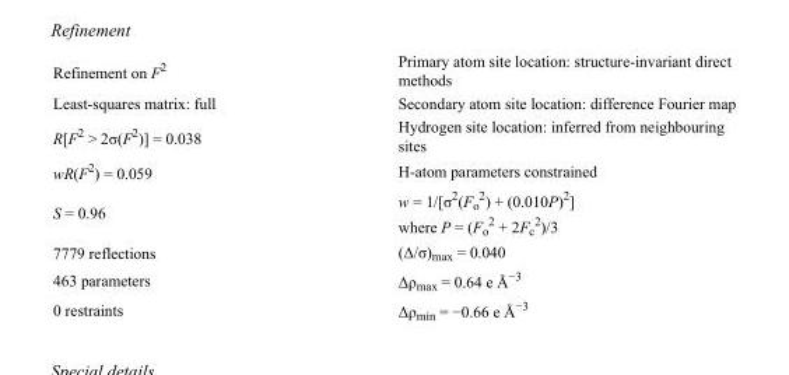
<table><tbody><tr><td>Refinement on F<sup>2</sup></td><td>Primary atom site location: structure-invariant direct methods</td></tr><tr><td>Least-squares matrix: full</td><td>Secondary atom site location: difference Fourier map</td></tr><tr><td>R[F<sup>2</sup> &gt; 2σ(F<sup>2</sup>)] = 0.038</td><td>Hydrogen site location: inferred from neighbouring sites</td></tr><tr><td>wR(F<sup>2</sup>) = 0.059</td><td>H-atom parameters constrained</td></tr><tr><td>S = 0.96</td><td>w = 1/[σ<sup>2</sup>(F<sub>o</sub> <sup>2</sup>) + (0.010P)<sup>2</sup>] where P = (F<sub>o</sub> <sup>2</sup> + 2F<sub>c</sub> <sup>2</sup>)/3</td></tr><tr><td>7779 reflections</td><td>(Δ/σ)<sub>max</sub> = 0.040</td></tr><tr><td>463 parameters</td><td>Δρ<sub>max</sub> = 0.64 e Å<sup>−3</sup></td></tr><tr><td>0 restraints</td><td>Δρ<sub>min</sub> = −0.66 e Å<sup>−3</sup></td></tr></tbody></table>